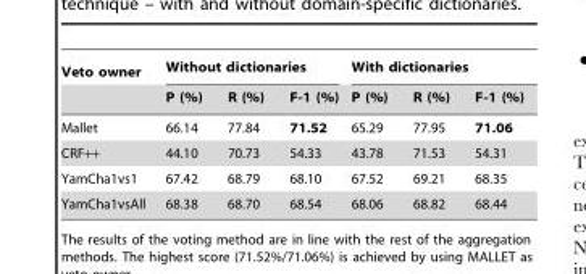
<table><thead><tr><td rowspan="2">Veto owner</td><td colspan="3">Without dictionaries</td><td colspan="3">With dictionaries</td></tr><tr><td>P (%)</td><td>R (%)</td><td>F-1 (%)</td><td>P (%)</td><td>R (%)</td><td>F-1 (%)</td></tr></thead><tbody><tr><td>Mallet</td><td>66.14</td><td>77.84</td><td>71.52</td><td>65.29</td><td>77.95</td><td>71.06</td></tr><tr><td>CRF++</td><td>44.10</td><td>70.73</td><td>54.33</td><td>43.78</td><td>71.53</td><td>54.31</td></tr><tr><td>YamCha1vs1</td><td>67.42</td><td>68.79</td><td>68.10</td><td>67.52</td><td>69.21</td><td>68.35</td></tr><tr><td>YamCha1vsAll</td><td>68.38</td><td>68.70</td><td>68.54</td><td>68.06</td><td>68.82</td><td>68.44</td></tr></tbody></table>